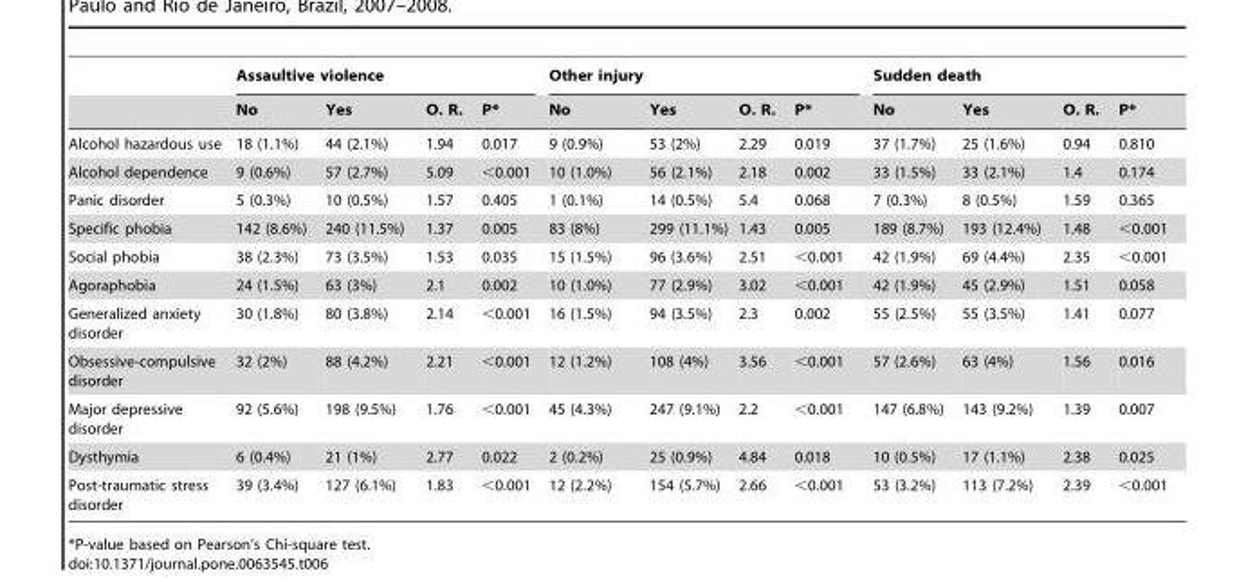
<table><thead><tr><td rowspan="2"></td><td colspan="4">Assaultive violence</td><td colspan="4">Other injury</td><td colspan="4">Sudden death</td></tr><tr><td>No</td><td>Yes</td><td>O. R.</td><td>P*</td><td>No</td><td>Yes</td><td>O. R.</td><td>P*</td><td>No</td><td>Yes</td><td>O. R.</td><td>P*</td></tr></thead><tbody><tr><td>Alcohol hazardous use</td><td>18 (1.1%)</td><td>44 (2.1%)</td><td>1.94</td><td>0.017</td><td>9 (0.9%)</td><td>53 (2%)</td><td>2.29</td><td>0.019</td><td>37 (1.7%)</td><td>25 (1.6%)</td><td>0.94</td><td>0.810</td></tr><tr><td>Alcohol dependence</td><td>9 (0.6%)</td><td>57 (2.7%)</td><td>5.09</td><td>&lt;0.001</td><td>10 (1.0%)</td><td>56 (2.1%)</td><td>2.18</td><td>0.002</td><td>33 (1.5%)</td><td>33 (2.1%)</td><td>1.4</td><td>0.174</td></tr><tr><td>Panic disorder</td><td>5 (0.3%)</td><td>10 (0.5%)</td><td>1.57</td><td>0.405</td><td>1 (0.1%)</td><td>14 (0.5%)</td><td>5.4</td><td>0.068</td><td>7 (0.3%)</td><td>8 (0.5%)</td><td>1.59</td><td>0.365</td></tr><tr><td>Specific phobia</td><td>142 (8.6%)</td><td>240 (11.5%)</td><td>1.37</td><td>0.005</td><td>83 (8%)</td><td>299 (11.1%)</td><td>1.43</td><td>0.005</td><td>189 (8.7%)</td><td>193 (12.4%)</td><td>1.48</td><td>&lt;0.001</td></tr><tr><td>Social phobia</td><td>38 (2.3%)</td><td>73 (3.5%)</td><td>1.53</td><td>0.035</td><td>15 (1.5%)</td><td>96 (3.6%)</td><td>2.51</td><td>&lt;0.001</td><td>42 (1.9%)</td><td>69 (4.4%)</td><td>2.35</td><td>&lt;0.001</td></tr><tr><td>Agoraphobia</td><td>24 (1.5%)</td><td>63 (3%)</td><td>2.1</td><td>0.002</td><td>10 (1.0%)</td><td>77 (2.9%)</td><td>3.02</td><td>&lt;0.001</td><td>42 (1.9%)</td><td>45 (2.9%)</td><td>1.51</td><td>0.058</td></tr><tr><td>Generalized anxiety disorder</td><td>30 (1.8%)</td><td>80 (3.8%)</td><td>2.14</td><td>&lt;0.001</td><td>16 (1.5%)</td><td>94 (3.5%)</td><td>2.3</td><td>0.002</td><td>55 (2.5%)</td><td>55 (3.5%)</td><td>1.41</td><td>0.077</td></tr><tr><td>Obsessive-compulsive disorder</td><td>32 (2%)</td><td>88 (4.2%)</td><td>2.21</td><td>&lt;0.001</td><td>12 (1.2%)</td><td>108 (4%)</td><td>3.56</td><td>&lt;0.001</td><td>57 (2.6%)</td><td>63 (4%)</td><td>1.56</td><td>0.016</td></tr><tr><td>Major depressive disorder</td><td>92 (5.6%)</td><td>198 (9.5%)</td><td>1.76</td><td>&lt;0.001</td><td>45 (4.3%)</td><td>247 (9.1%)</td><td>2.2</td><td>&lt;0.001</td><td>147 (6.8%)</td><td>143 (9.2%)</td><td>1.39</td><td>0.007</td></tr><tr><td>Dysthymia</td><td>6 (0.4%)</td><td>21 (1%)</td><td>2.77</td><td>0.022</td><td>2 (0.2%)</td><td>25 (0.9%)</td><td>4.84</td><td>0.018</td><td>10 (0.5%)</td><td>17 (1.1%)</td><td>2.38</td><td>0.025</td></tr><tr><td>Post-traumatic stress disorder</td><td>39 (3.4%)</td><td>127 (6.1%)</td><td>1.83</td><td>&lt;0.001</td><td>12 (2.2%)</td><td>154 (5.7%)</td><td>2.66</td><td>&lt;0.001</td><td>53 (3.2%)</td><td>113 (7.2%)</td><td>2.39</td><td>&lt;0.001</td></tr></tbody></table>